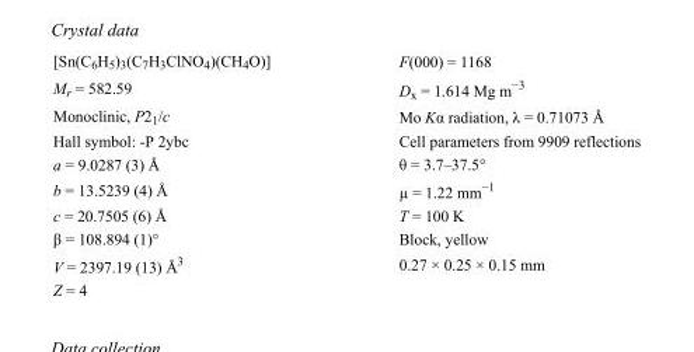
<table><tbody><tr><td>[Sn(C<sub>6</sub>H<sub>5</sub>)<sub>3</sub>(C<sub>7</sub>H<sub>3</sub>ClNO<sub>4</sub>)(CH<sub>4</sub>O)]</td><td>F(000) = 1168</td></tr><tr><td>M<sub>r</sub> = 582.59</td><td>D<sub>x</sub> = 1.614 Mg m<sup>−3</sup></td></tr><tr><td>Monoclinic, P2<sub>1</sub>/c</td><td>Mo Kα radiation, λ = 0.71073 Å</td></tr><tr><td>Hall symbol: -P 2ybc</td><td>Cell parameters from 9909 reflections</td></tr><tr><td>a = 9.0287 (3) Å</td><td>θ = 3.7–37.5°</td></tr><tr><td>b = 13.5239 (4) Å</td><td>µ = 1.22 mm<sup>−1</sup></td></tr><tr><td>c = 20.7505 (6) Å</td><td>T = 100 K</td></tr><tr><td>β = 108.894 (1)°</td><td>Block, yellow</td></tr><tr><td>V = 2397.19 (13) Å<sup>3</sup></td><td>0.27 × 0.25 × 0.15 mm</td></tr><tr><td>Z = 4</td><td></td></tr></tbody></table>